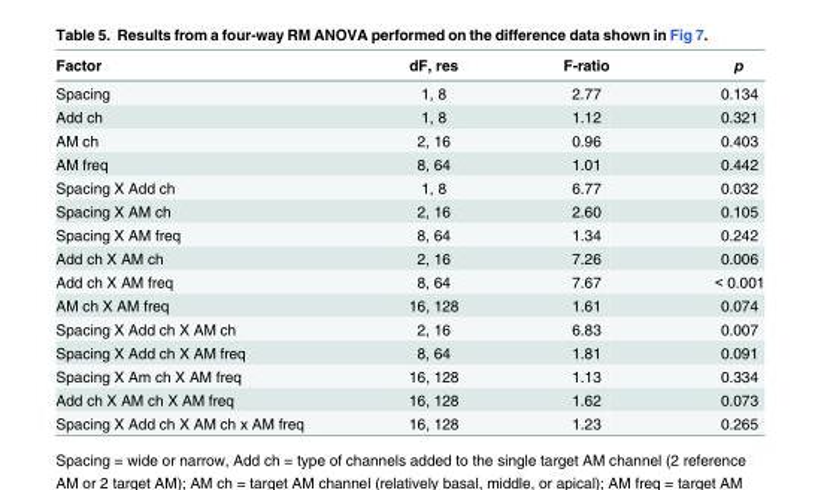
<table><thead><tr><td>Factor</td><td>dF, res</td><td>F-ratio</td><td>p</td></tr></thead><tbody><tr><td>Spacing</td><td>1, 8</td><td>2.77</td><td>0.134</td></tr><tr><td>Add ch</td><td>1, 8</td><td>1.12</td><td>0.321</td></tr><tr><td>AM ch</td><td>2, 16</td><td>0.96</td><td>0.403</td></tr><tr><td>AM freq</td><td>8, 64</td><td>1.01</td><td>0.442</td></tr><tr><td>Spacing X Add ch</td><td>1, 8</td><td>6.77</td><td>0.032</td></tr><tr><td>Spacing X AM ch</td><td>2, 16</td><td>2.60</td><td>0.105</td></tr><tr><td>Spacing X AM freq</td><td>8, 64</td><td>1.34</td><td>0.242</td></tr><tr><td>Add ch X AM ch</td><td>2, 16</td><td>7.26</td><td>0.006</td></tr><tr><td>Add ch X AM freq</td><td>8, 64</td><td>7.67</td><td>&lt; 0.001</td></tr><tr><td>AM ch X AM freq</td><td>16, 128</td><td>1.61</td><td>0.074</td></tr><tr><td>Spacing X Add ch X AM ch</td><td>2, 16</td><td>6.83</td><td>0.007</td></tr><tr><td>Spacing X Add ch X AM freq</td><td>8, 64</td><td>1.81</td><td>0.091</td></tr><tr><td>Spacing X Am ch X AM freq</td><td>16, 128</td><td>1.13</td><td>0.334</td></tr><tr><td>Add ch X AM ch X AM freq</td><td>16, 128</td><td>1.62</td><td>0.073</td></tr><tr><td>Spacing X Add ch X AM ch x AM freq</td><td>16, 128</td><td>1.23</td><td>0.265</td></tr></tbody></table>